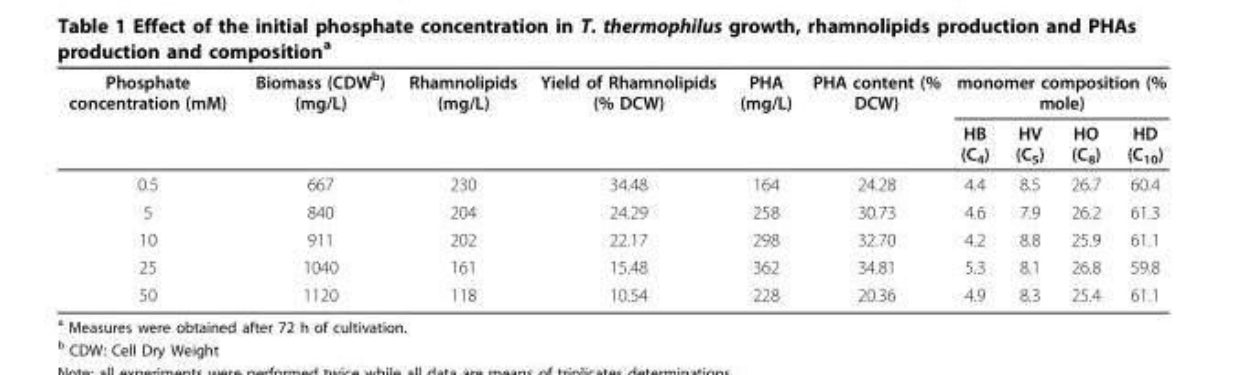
<table><thead><tr><td rowspan="2">Phosphate concentration (mM)</td><td rowspan="2">Biomass (CDW<sup>b</sup>) (mg/L)</td><td rowspan="2">Rhamnolipids (mg/L)</td><td rowspan="2">Yield of Rhamnolipids (% DCW)</td><td rowspan="2">PHA (mg/L)</td><td rowspan="2">PHA content (% DCW)</td><td colspan="4">monomer composition (% mole)</td></tr><tr><td>HB (C<sub>4</sub>)</td><td>HV (C<sub>5</sub>)</td><td>HO (C<sub>8</sub>)</td><td>HD (C<sub>10</sub>)</td></tr></thead><tbody><tr><td>0.5</td><td>667</td><td>230</td><td>34.48</td><td>164</td><td>24.28</td><td>4.4</td><td>8.5</td><td>26.7</td><td>60.4</td></tr><tr><td>5</td><td>840</td><td>204</td><td>24.29</td><td>258</td><td>30.73</td><td>4.6</td><td>7.9</td><td>26.2</td><td>61.3</td></tr><tr><td>10</td><td>911</td><td>202</td><td>22.17</td><td>298</td><td>32.70</td><td>4.2</td><td>8.8</td><td>25.9</td><td>61.1</td></tr><tr><td>25</td><td>1040</td><td>161</td><td>15.48</td><td>362</td><td>34.81</td><td>5.3</td><td>8.1</td><td>26.8</td><td>59.8</td></tr><tr><td>50</td><td>1120</td><td>118</td><td>10.54</td><td>228</td><td>20.36</td><td>4.9</td><td>8.3</td><td>25.4</td><td>61.1</td></tr></tbody></table>